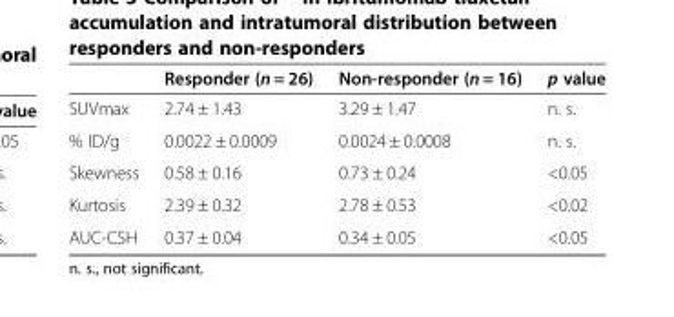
<table><thead><tr><td></td><td>Responder (n = 26)</td><td>Non-responder (n = 16)</td><td>p value</td></tr></thead><tbody><tr><td>SUVmax</td><td>2.74 ± 1.43</td><td>3.29 ± 1.47</td><td>n. s.</td></tr><tr><td>% ID/g</td><td>0.0022 ± 0.0009</td><td>0.0024 ± 0.0008</td><td>n. s.</td></tr><tr><td>Skewness</td><td>0.58 ± 0.16</td><td>0.73 ± 0.24</td><td>&lt;0.05</td></tr><tr><td>Kurtosis</td><td>2.39 ± 0.32</td><td>2.78 ± 0.53</td><td>&lt;0.02</td></tr><tr><td>AUC-CSH</td><td>0.37 ± 0.04</td><td>0.34 ± 0.05</td><td>&lt;0.05</td></tr></tbody></table>